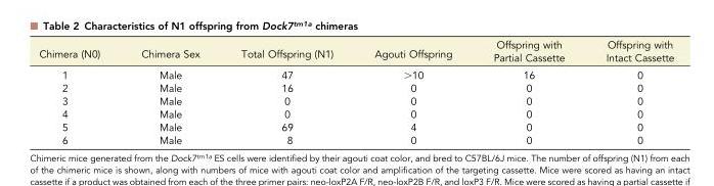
<table><thead><tr><td>Chimera (N0)</td><td>Chimera Sex</td><td>Total Offspring (N1)</td><td>Agouti Offspring</td><td>Offspring with Partial Cassette</td><td>Offspring with Intact Cassette</td></tr></thead><tbody><tr><td>1</td><td>Male</td><td>47</td><td>&gt;10</td><td>16</td><td>0</td></tr><tr><td>2</td><td>Male</td><td>16</td><td>0</td><td>0</td><td>0</td></tr><tr><td>3</td><td>Male</td><td>0</td><td>0</td><td>0</td><td>0</td></tr><tr><td>4</td><td>Male</td><td>0</td><td>0</td><td>0</td><td>0</td></tr><tr><td>5</td><td>Male</td><td>69</td><td>4</td><td>0</td><td>0</td></tr><tr><td>6</td><td>Male</td><td>8</td><td>0</td><td>0</td><td>0</td></tr></tbody></table>